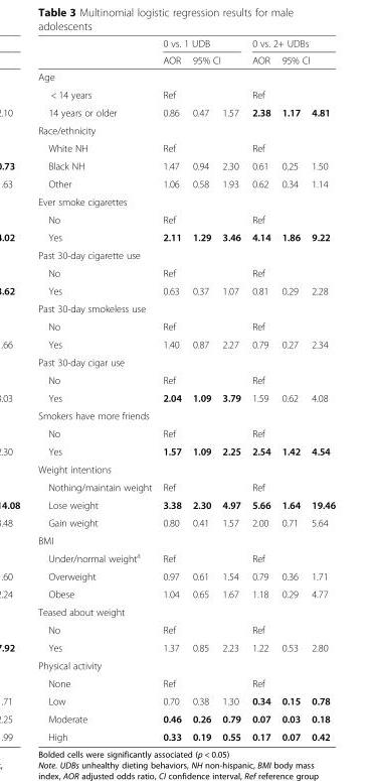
<table><thead><tr><td rowspan="2"></td><td colspan="3">0 vs. 1 UDB</td><td colspan="3">0 vs. 2+ UDBs</td></tr><tr><td>AOR</td><td colspan="2">95% CI</td><td>AOR</td><td colspan="2">95% CI</td></tr><tr><td colspan="7">Age</td></tr><tr><td>&lt; 14 years</td><td>Ref</td><td></td><td></td><td>Ref</td><td></td><td></td></tr></thead><tbody><tr><td>14 years or older</td><td>0.86</td><td>0.47</td><td>1.57</td><td>2.38</td><td>1.17</td><td>4.81</td></tr><tr><td colspan="7">Race/ethnicity</td></tr><tr><td>White NH</td><td>Ref</td><td></td><td></td><td>Ref</td><td></td><td></td></tr><tr><td>Black NH</td><td>1.47</td><td>0.94</td><td>2.30</td><td>0.61</td><td>0.25</td><td>1.50</td></tr><tr><td>Other</td><td>1.06</td><td>0.58</td><td>1.93</td><td>0.62</td><td>0.34</td><td>1.14</td></tr><tr><td colspan="7">Ever smoke cigarettes</td></tr><tr><td>No</td><td>Ref</td><td></td><td></td><td>Ref</td><td></td><td></td></tr><tr><td>Yes</td><td>2.11</td><td>1.29</td><td>3.46</td><td>4.14</td><td>1.86</td><td>9.22</td></tr><tr><td colspan="7">Past 30-day cigarette use</td></tr><tr><td>No</td><td>Ref</td><td></td><td></td><td>Ref</td><td></td><td></td></tr><tr><td>Yes</td><td>0.63</td><td>0.37</td><td>1.07</td><td>0.81</td><td>0.29</td><td>2.28</td></tr><tr><td colspan="7">Past 30-day smokeless use</td></tr><tr><td>No</td><td>Ref</td><td></td><td></td><td>Ref</td><td></td><td></td></tr><tr><td>Yes</td><td>1.40</td><td>0.87</td><td>2.27</td><td>0.79</td><td>0.27</td><td>2.34</td></tr><tr><td colspan="7">Past 30-day cigar use</td></tr><tr><td>No</td><td>Ref</td><td></td><td></td><td>Ref</td><td></td><td></td></tr><tr><td>Yes</td><td>2.04</td><td>1.09</td><td>3.79</td><td>1.59</td><td>0.62</td><td>4.08</td></tr><tr><td colspan="7">Smokers have more friends</td></tr><tr><td>No</td><td>Ref</td><td></td><td></td><td>Ref</td><td></td><td></td></tr><tr><td>Yes</td><td>1.57</td><td>1.09</td><td>2.25</td><td>2.54</td><td>1.42</td><td>4.54</td></tr><tr><td colspan="7">Weight intentions</td></tr><tr><td>Nothing/maintain weight</td><td>Ref</td><td></td><td></td><td>Ref</td><td></td><td></td></tr><tr><td>Lose weight</td><td>3.38</td><td>2.30</td><td>4.97</td><td>5.66</td><td>1.64</td><td>19.46</td></tr><tr><td>Gain weight</td><td>0.80</td><td>0.41</td><td>1.57</td><td>2.00</td><td>0.71</td><td>5.64</td></tr><tr><td colspan="7">BMI</td></tr><tr><td>Under/normal weight<sup>a</sup></td><td>Ref</td><td></td><td></td><td>Ref</td><td></td><td></td></tr><tr><td>Overweight</td><td>0.97</td><td>0.61</td><td>1.54</td><td>0.79</td><td>0.36</td><td>1.71</td></tr><tr><td>Obese</td><td>1.04</td><td>0.65</td><td>1.67</td><td>1.18</td><td>0.29</td><td>4.77</td></tr><tr><td colspan="7">Teased about weight</td></tr><tr><td>No</td><td>Ref</td><td></td><td></td><td>Ref</td><td></td><td></td></tr><tr><td>Yes</td><td>1.37</td><td>0.85</td><td>2.23</td><td>1.22</td><td>0.53</td><td>2.80</td></tr><tr><td colspan="7">Physical activity</td></tr><tr><td>None</td><td>Ref</td><td></td><td></td><td>Ref</td><td></td><td></td></tr><tr><td>Low</td><td>0.70</td><td>0.38</td><td>1.30</td><td>0.34</td><td>0.15</td><td>0.78</td></tr><tr><td>Moderate</td><td>0.46</td><td>0.26</td><td>0.79</td><td>0.07</td><td>0.03</td><td>0.18</td></tr><tr><td>High</td><td>0.33</td><td>0.19</td><td>0.55</td><td>0.17</td><td>0.07</td><td>0.42</td></tr></tbody></table>